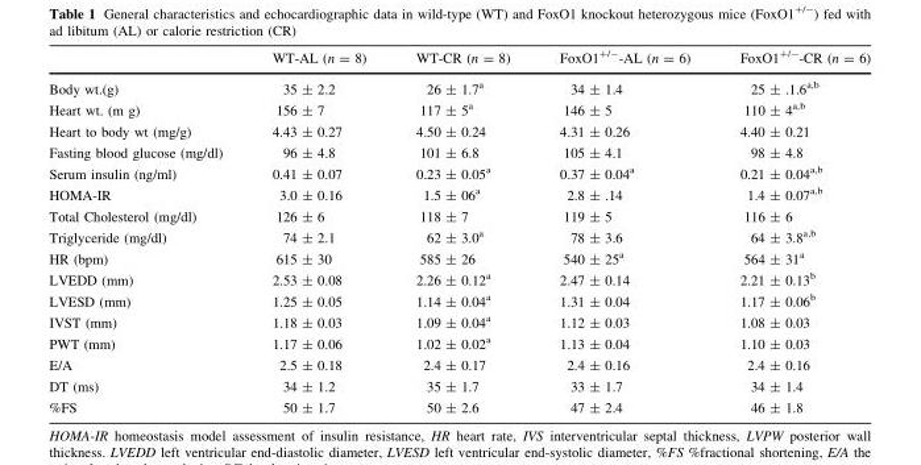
<table><thead><tr><td></td><td>WT-AL (n = 8)</td><td>WT-CR (n = 8)</td><td>FoxO1<sup>+/-</sup>-AL (n = 6)</td><td>FoxO1<sup>+/-</sup>-CR (n = 6)</td></tr></thead><tbody><tr><td>Body wt.(g)</td><td>35 ± 2.2</td><td>26 ± 1.7<sup>a</sup></td><td>34 ± 1.4</td><td>25 ± .1.6<sup>a,b</sup></td></tr><tr><td>Heart wt. (m g)</td><td>156 ± 7</td><td>117 ± 5<sup>a</sup></td><td>146 ± 5</td><td>110 ± 4<sup>a,b</sup></td></tr><tr><td>Heart to body wt (mg/g)</td><td>4.43 ± 0.27</td><td>4.50 ± 0.24</td><td>4.31 ± 0.26</td><td>4.40 ± 0.21</td></tr><tr><td>Fasting blood glucose (mg/dl)</td><td>96 ± 4.8</td><td>101 ± 6.8</td><td>105 ± 4.1</td><td>98 ± 4.8</td></tr><tr><td>Serum insulin (ng/ml)</td><td>0.41 ± 0.07</td><td>0.23 ± 0.05<sup>a</sup></td><td>0.37 ± 0.04<sup>a</sup></td><td>0.21 ± 0.04<sup>a,b</sup></td></tr><tr><td>HOMA-IR</td><td>3.0 ± 0.16</td><td>1.5 ± 06<sup>a</sup></td><td>2.8 ± .14</td><td>1.4 ± 0.07<sup>a,b</sup></td></tr><tr><td>Total Cholesterol (mg/dl)</td><td>126 ± 6</td><td>118 ± 7</td><td>119 ± 5</td><td>116 ± 6</td></tr><tr><td>Triglyceride (mg/dl)</td><td>74 ± 2.1</td><td>62 ± 3.0<sup>a</sup></td><td>78 ± 3.6</td><td>64 ± 3.8<sup>a,b</sup></td></tr><tr><td>HR (bpm)</td><td>615 ± 30</td><td>585 ± 26</td><td>540 ± 25<sup>a</sup></td><td>564 ± 31<sup>a</sup></td></tr><tr><td>LVEDD (mm)</td><td>2.53 ± 0.08</td><td>2.26 ± 0.12<sup>a</sup></td><td>2.47 ± 0.14</td><td>2.21 ± 0.13<sup>b</sup></td></tr><tr><td>LVESD (mm)</td><td>1.25 ± 0.05</td><td>1.14 ± 0.04<sup>a</sup></td><td>1.31 ± 0.04</td><td>1.17 ± 0.06<sup>b</sup></td></tr><tr><td>IVST (mm)</td><td>1.18 ± 0.03</td><td>1.09 ± 0.04<sup>a</sup></td><td>1.12 ± 0.03</td><td>1.08 ± 0.03</td></tr><tr><td>PWT (mm)</td><td>1.17 ± 0.06</td><td>1.02 ± 0.02<sup>a</sup></td><td>1.13 ± 0.04</td><td>1.10 ± 0.03</td></tr><tr><td>E/A</td><td>2.5 ± 0.18</td><td>2.4 ± 0.17</td><td>2.4 ± 0.16</td><td>2.4 ± 0.16</td></tr><tr><td>DT (ms)</td><td>34 ± 1.2</td><td>35 ± 1.7</td><td>33 ± 1.7</td><td>34 ± 1.4</td></tr><tr><td>%FS</td><td>50 ± 1.7</td><td>50 ± 2.6</td><td>47 ± 2.4</td><td>46 ± 1.8</td></tr></tbody></table>